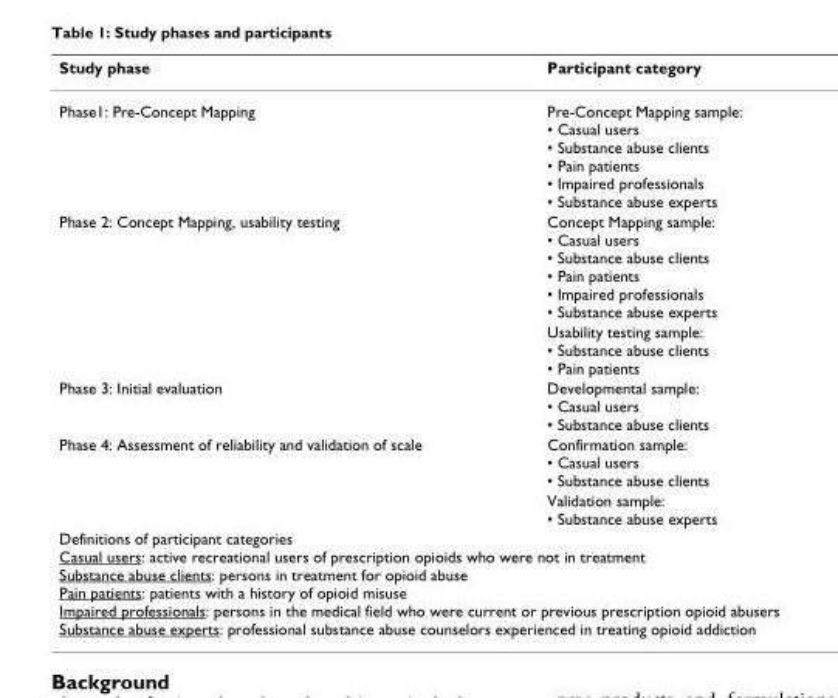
<table><thead><tr><td>Study phase</td><td>Participant category</td></tr></thead><tbody><tr><td>Phase1: Pre-Concept Mapping</td><td>Pre-Concept Mapping sample: • Casual users • Substance abuse clients • Pain patients • Impaired professionals • Substance abuse experts</td></tr><tr><td rowspan="2">Phase 2: Concept Mapping, usability testing</td><td>Concept Mapping sample: • Casual users • Substance abuse clients • Pain patients • Impaired professionals • Substance abuse experts</td></tr><tr><td>Usability testing sample: • Substance abuse clients • Pain patients</td></tr><tr><td>Phase 3: Initial evaluation</td><td>Developmental sample: • Casual users • Substance abuse clients</td></tr><tr><td rowspan="2">Phase 4: Assessment of reliability and validation of scale</td><td>Confirmation sample: • Casual users • Substance abuse clients</td></tr><tr><td>Validation sample: • Substance abuse experts</td></tr><tr><td colspan="2">Definitions of participant categories Casual users: active recreational users of prescription opioids who were not in treatment Substance abuse clients: persons in treatment for opioid abuse Pain patients: patients with a history of opioid misuse Impaired professionals: persons in the medical field who were current or previous prescription opioid abusers Substance abuse experts: professional substance abuse counselors experienced in treating opioid addiction</td></tr></tbody></table>